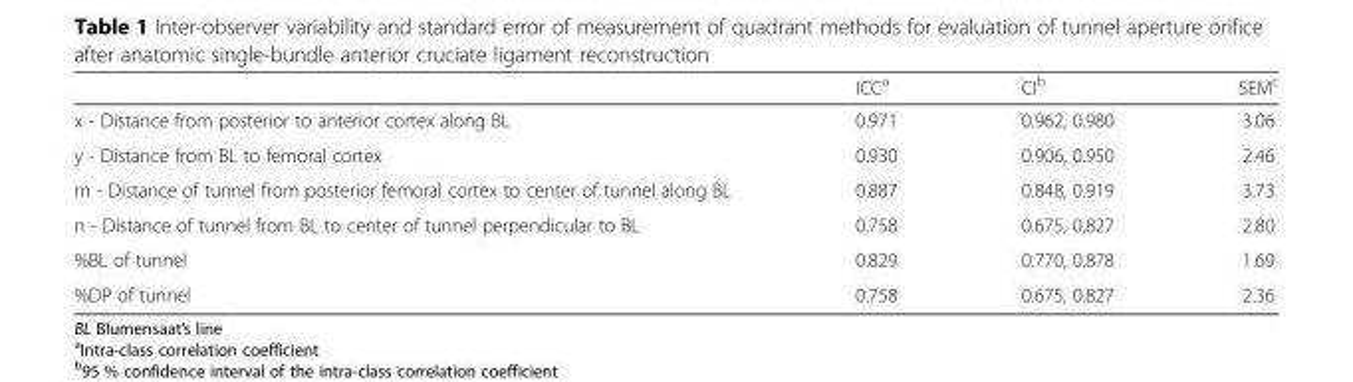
<table><thead><tr><td></td><td>ICC<sup>a</sup></td><td>CI<sup>b</sup></td><td>SEM<sup>c</sup></td></tr></thead><tbody><tr><td>x - Distance from posterior to anterior cortex along BL</td><td>0.971</td><td>0.962, 0.980</td><td>3.06</td></tr><tr><td>y - Distance from BL to femoral cortex</td><td>0.930</td><td>0.906, 0.950</td><td>2.46</td></tr><tr><td>m - Distance of tunnel from posterior femoral cortex to center of tunnel along BL</td><td>0.887</td><td>0.848, 0.919</td><td>3.73</td></tr><tr><td>n - Distance of tunnel from BL to center of tunnel perpendicular to BL</td><td>0.758</td><td>0.675, 0.827</td><td>2.80</td></tr><tr><td>%BL of tunnel</td><td>0.829</td><td>0.770, 0.878</td><td>1.69</td></tr><tr><td>%DP of tunnel</td><td>0.758</td><td>0.675, 0.827</td><td>2.36</td></tr></tbody></table>